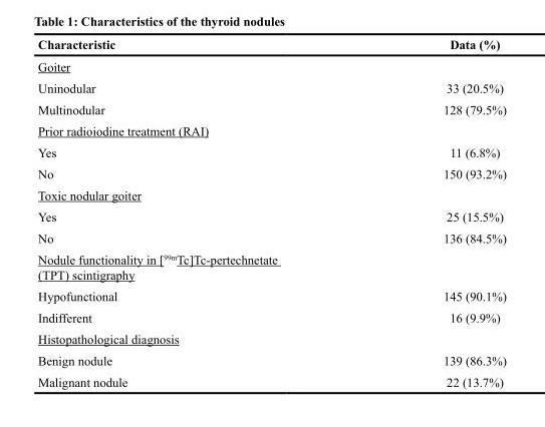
<table><thead><tr><td>Characteristic</td><td>Data (%)</td></tr></thead><tbody><tr><td colspan="2">Goiter</td></tr><tr><td>Uninodular</td><td>33 (20.5%)</td></tr><tr><td>Multinodular</td><td>128 (79.5%)</td></tr><tr><td colspan="2">Prior radioiodine treatment (RAI)</td></tr><tr><td>Yes</td><td>11 (6.8%)</td></tr><tr><td>No</td><td>150 (93.2%)</td></tr><tr><td colspan="2">Toxic nodular goiter</td></tr><tr><td>Yes</td><td>25 (15.5%)</td></tr><tr><td>No</td><td>136 (84.5%)</td></tr><tr><td colspan="2">Nodule functionality in [<sup>99m</sup>Tc]Tc-pertechnetate (TPT) scintigraphy</td></tr><tr><td>Hypofunctional</td><td>145 (90.1%)</td></tr><tr><td>Indifferent</td><td>16 (9.9%)</td></tr><tr><td colspan="2">Histopathological diagnosis</td></tr><tr><td>Benign nodule</td><td>139 (86.3%)</td></tr><tr><td>Malignant nodule</td><td>22 (13.7%)</td></tr></tbody></table>